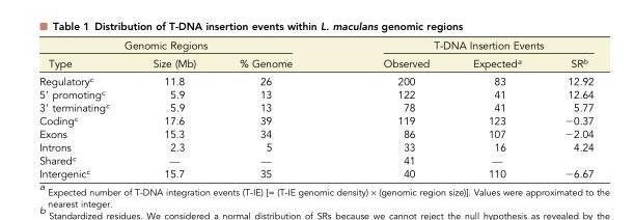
<table><thead><tr><td colspan="3">Genomic Regions</td><td colspan="3">T-DNA Insertion Events</td></tr><tr><td>Type</td><td>Size (Mb)</td><td>% Genome</td><td>Observed</td><td>Expected<sup>a</sup></td><td>SR<sup>b</sup></td></tr></thead><tbody><tr><td>Regulatory<sup>c</sup></td><td>11.8</td><td>26</td><td>200</td><td>83</td><td>12.92</td></tr><tr><td>5′ promoting<sup>c</sup></td><td>5.9</td><td>13</td><td>122</td><td>41</td><td>12.64</td></tr><tr><td>3′ terminating<sup>c</sup></td><td>5.9</td><td>13</td><td>78</td><td>41</td><td>5.77</td></tr><tr><td>Coding<sup>c</sup></td><td>17.6</td><td>39</td><td>119</td><td>123</td><td>−0.37</td></tr><tr><td>Exons</td><td>15.3</td><td>34</td><td>86</td><td>107</td><td>−2.04</td></tr><tr><td>Introns</td><td>2.3</td><td>5</td><td>33</td><td>16</td><td>4.24</td></tr><tr><td>Shared<sup>c</sup></td><td>—</td><td>—</td><td>41</td><td>—</td><td></td></tr><tr><td>Intergenic<sup>c</sup></td><td>15.7</td><td>35</td><td>40</td><td>110</td><td>−6.67</td></tr></tbody></table>